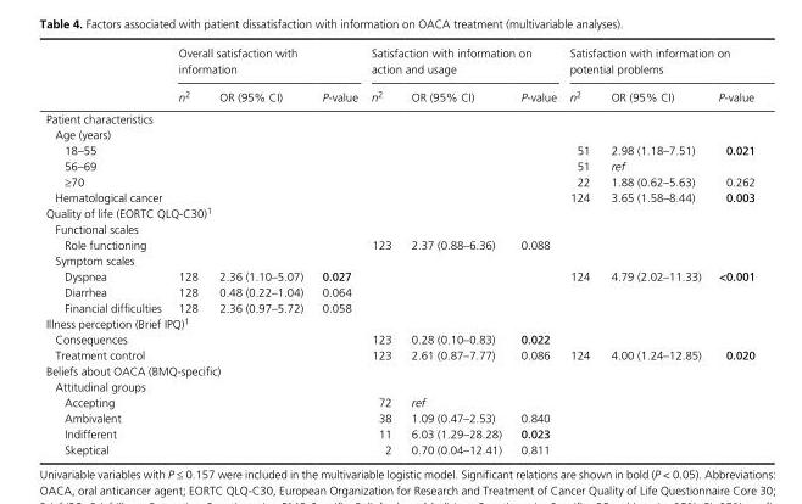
<table><thead><tr><td rowspan="2"></td><td colspan="3">Overall satisfaction with information</td><td colspan="3">Satisfaction with information on action and usage</td><td colspan="3">Satisfaction with information on potential problems</td></tr><tr><td>n2</td><td>OR (95% CI)</td><td>P- value</td><td>n2</td><td>OR (95% CI)</td><td>P- value</td><td>n2</td><td>OR (95% CI)</td><td>P- value</td></tr></thead><tbody><tr><td colspan="10">Patient characteristics</td></tr><tr><td colspan="10">Age (years)</td></tr><tr><td>18–55</td><td></td><td></td><td></td><td></td><td></td><td></td><td>51</td><td>2.98 (1.18–7.51)</td><td>0.021</td></tr><tr><td>56–69</td><td></td><td></td><td></td><td></td><td></td><td></td><td>51</td><td>ref</td><td></td></tr><tr><td>≥70</td><td></td><td></td><td></td><td></td><td></td><td></td><td>22</td><td>1.88 (0.62–5.63)</td><td>0.262</td></tr><tr><td>Hematological cancer</td><td></td><td></td><td></td><td></td><td></td><td></td><td>124</td><td>3.65 (1.58–8.44)</td><td>0.003</td></tr><tr><td colspan="10">Quality of life (EORTC QLQ- C30)1</td></tr><tr><td colspan="10">Functional scales</td></tr><tr><td>Role functioning</td><td></td><td></td><td></td><td>123</td><td>2.37 (0.88–6.36)</td><td>0.088</td><td></td><td></td><td></td></tr><tr><td colspan="10">Symptom scales</td></tr><tr><td>Dyspnea</td><td>128</td><td>2.36 (1.10–5.07)</td><td>0.027</td><td></td><td></td><td></td><td>124</td><td>4.79 (2.02–11.33)</td><td>&lt;0.001</td></tr><tr><td>Diarrhea</td><td>128</td><td>0.48 (0.22–1.04)</td><td>0.064</td><td></td><td></td><td></td><td></td><td></td><td></td></tr><tr><td>F inancial difficulties</td><td>128</td><td>2.36 (0.97–5.72)</td><td>0.058</td><td></td><td></td><td></td><td></td><td></td><td></td></tr><tr><td colspan="10">Illness perception (Brief IPQ)1</td></tr><tr><td>Consequences</td><td></td><td></td><td></td><td>123</td><td>0.28 (0.10–0.83)</td><td>0.022</td><td></td><td></td><td></td></tr><tr><td>Treatment control</td><td></td><td></td><td></td><td>123</td><td>2.61 (0.87–7.77)</td><td>0.086</td><td>124</td><td>4.00 (1.24–12.85)</td><td>0.020</td></tr><tr><td colspan="10">Beliefs about OACA (BMQ- specific)</td></tr><tr><td colspan="10">Attitudinal groups</td></tr><tr><td>Accepting</td><td></td><td></td><td></td><td>72</td><td>ref</td><td></td><td></td><td></td><td></td></tr><tr><td>Ambivalent</td><td></td><td></td><td></td><td>38</td><td>1.09 (0.47–2.53)</td><td>0.840</td><td></td><td></td><td></td></tr><tr><td>Indifferent</td><td></td><td></td><td></td><td>11</td><td>6.03 (1.29–28.28)</td><td>0.023</td><td></td><td></td><td></td></tr><tr><td>Skeptical</td><td></td><td></td><td></td><td>2</td><td>0.70 (0.04–12.41)</td><td>0.811</td><td></td><td></td><td></td></tr></tbody></table>